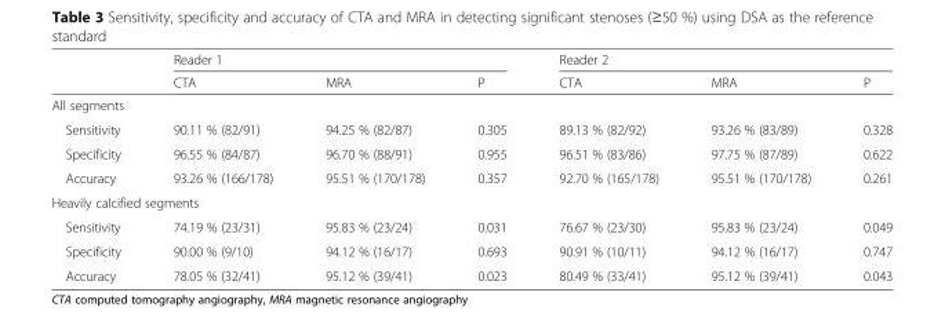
<table><thead><tr><td rowspan="2"></td><td colspan="3">Reader 1</td><td colspan="3">Reader 2</td></tr><tr><td>CTA</td><td>MRA</td><td>P</td><td>CTA</td><td>MRA</td><td>P</td></tr></thead><tbody><tr><td colspan="7">All segments</td></tr><tr><td>Sensitivity</td><td>90.11 % (82/91)</td><td>94.25 % (82/87)</td><td>0.305</td><td>89.13 % (82/92)</td><td>93.26 % (83/89)</td><td>0.328</td></tr><tr><td>Specificity</td><td>96.55 % (84/87)</td><td>96.70 % (88/91)</td><td>0.955</td><td>96.51 % (83/86)</td><td>97.75 % (87/89)</td><td>0.622</td></tr><tr><td>Accuracy</td><td>93.26 % (166/178)</td><td>95.51 % (170/178)</td><td>0.357</td><td>92.70 % (165/178)</td><td>95.51 % (170/178)</td><td>0.261</td></tr><tr><td colspan="7">Heavily calcified segments</td></tr><tr><td>Sensitivity</td><td>74.19 % (23/31)</td><td>95.83 % (23/24)</td><td>0.031</td><td>76.67 % (23/30)</td><td>95.83 % (23/24)</td><td>0.049</td></tr><tr><td>Specificity</td><td>90.00 % (9/10)</td><td>94.12 % (16/17)</td><td>0.693</td><td>90.91 % (10/11)</td><td>94.12 % (16/17)</td><td>0.747</td></tr><tr><td>Accuracy</td><td>78.05 % (32/41)</td><td>95.12 % (39/41)</td><td>0.023</td><td>80.49 % (33/41)</td><td>95.12 % (39/41)</td><td>0.043</td></tr></tbody></table>